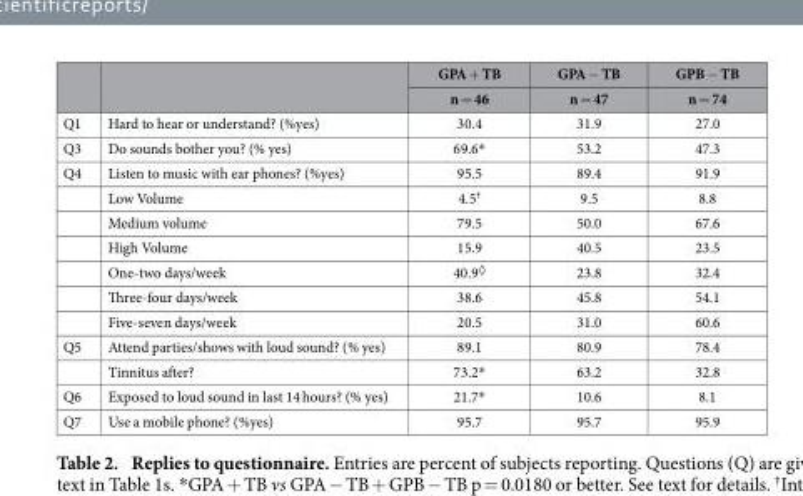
<table><thead><tr><td rowspan="2"></td><td rowspan="2"></td><td rowspan="2">GPA + TB n = 46</td><td rowspan="2">GPA − TB n = 47</td><td rowspan="2">GPB − TB n = 74</td></tr><tr></tr></thead><tbody><tr><td>Q1</td><td>Hard to hear or understand? (%yes)</td><td>30.4</td><td>31.9</td><td>27.0</td></tr><tr><td>Q3</td><td>Do sounds bother you? (% yes)</td><td>69.6*</td><td>53.2</td><td>47.3</td></tr><tr><td rowspan="7">Q4</td><td>Listen to music with ear phones? (%yes)</td><td>95.5</td><td>89.4</td><td>91.9</td></tr><tr><td>Low Volume</td><td>4.5†</td><td>9.5</td><td>8.8</td></tr><tr><td>Medium volume</td><td>79.5</td><td>50.0</td><td>67.6</td></tr><tr><td>High Volume</td><td>15.9</td><td>40.5</td><td>23.5</td></tr><tr><td>One-two days/week</td><td>40.9◊</td><td>23.8</td><td>32.4</td></tr><tr><td>Three-four days/week</td><td>38.6</td><td>45.8</td><td>54.1</td></tr><tr><td>Five-seven days/week</td><td>20.5</td><td>31.0</td><td>60.6</td></tr><tr><td rowspan="2">Q5</td><td>Attend parties/shows with loud sound? (% yes)</td><td>89.1</td><td>80.9</td><td>78.4</td></tr><tr><td>Tinnitus after?</td><td>73.2*</td><td>63.2</td><td>32.8</td></tr><tr><td>Q6</td><td>Exposed to loud sound in last 14 hours? (% yes)</td><td>21.7*</td><td>10.6</td><td>8.1</td></tr><tr><td>Q7</td><td>Use a mobile phone? (%yes)</td><td>95.7</td><td>95.7</td><td>95.9</td></tr></tbody></table>